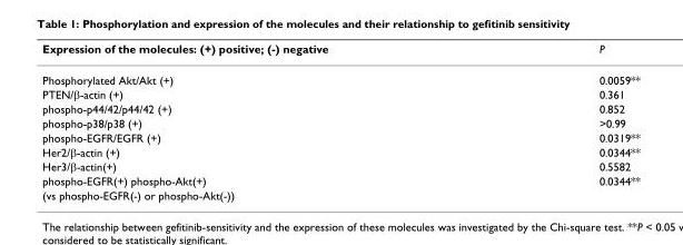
<table><thead><tr><td>Expression of the molecules: (+) positive; (-) negative</td><td>P</td></tr></thead><tbody><tr><td>Phosphorylated Akt/Akt (+)</td><td>0.0059**</td></tr><tr><td>PTEN/β-actin (+)</td><td>0.361</td></tr><tr><td>phospho-p44/42/p44/42 (+)</td><td>0.852</td></tr><tr><td>phospho-p38/p38 (+)</td><td>&gt;0.99</td></tr><tr><td>phospho-EGFR/EGFR (+)</td><td>0.0319**</td></tr><tr><td>Her2/β-actin (+)</td><td>0.0344**</td></tr><tr><td>Her3/β-actin(+)</td><td>0.5582</td></tr><tr><td>phospho-EGFR(+) phospho-Akt(+)</td><td>0.0344**</td></tr><tr><td>(vs phospho-EGFR(-) or phospho-Akt(-))</td><td></td></tr></tbody></table>